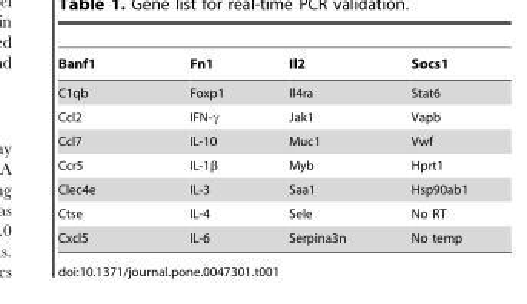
<table><thead><tr><td>Banf1</td><td>Fn1</td><td>Il2</td><td>Socs1</td></tr></thead><tbody><tr><td>C1qb</td><td>Foxp1</td><td>Il4ra</td><td>Stat6</td></tr><tr><td>Ccl2</td><td>IFN-γ</td><td>Jak1</td><td>Vapb</td></tr><tr><td>Ccl7</td><td>IL-10</td><td>Muc1</td><td>Vwf</td></tr><tr><td>Ccr5</td><td>IL-1β</td><td>Myb</td><td>Hprt1</td></tr><tr><td>Clec4e</td><td>IL-3</td><td>Saa1</td><td>Hsp90ab1</td></tr><tr><td>Ctse</td><td>IL-4</td><td>Sele</td><td>No RT</td></tr><tr><td>Cxcl5</td><td>IL-6</td><td>Serpina3n</td><td>No temp</td></tr></tbody></table>